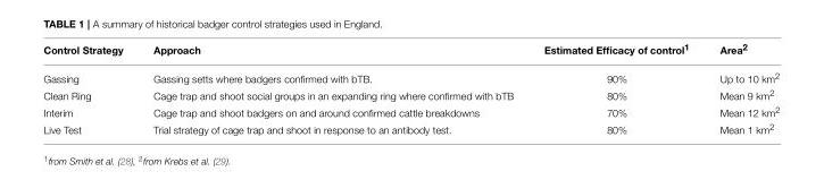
<table><thead><tr><td>Control Strategy</td><td>Approach</td><td>Estimated Efficacy of control<sup>1</sup></td><td>Area<sup>2</sup></td></tr></thead><tbody><tr><td>Gassing</td><td>Gassing setts where badgers confirmed with bTB.</td><td>90%</td><td>Up to 10 km<sup>2</sup></td></tr><tr><td>Clean Ring</td><td>Cage trap and shoot social groups in an expanding ring where confirmed with bTB</td><td>80%</td><td>Mean 9 km<sup>2</sup></td></tr><tr><td>Interim</td><td>Cage trap and shoot badgers on and around confirmed cattle breakdowns</td><td>70%</td><td>Mean 12 km<sup>2</sup></td></tr><tr><td>Live Test</td><td>Trial strategy of cage trap and shoot in response to an antibody test.</td><td>80%</td><td>Mean 1 km<sup>2</sup></td></tr></tbody></table>